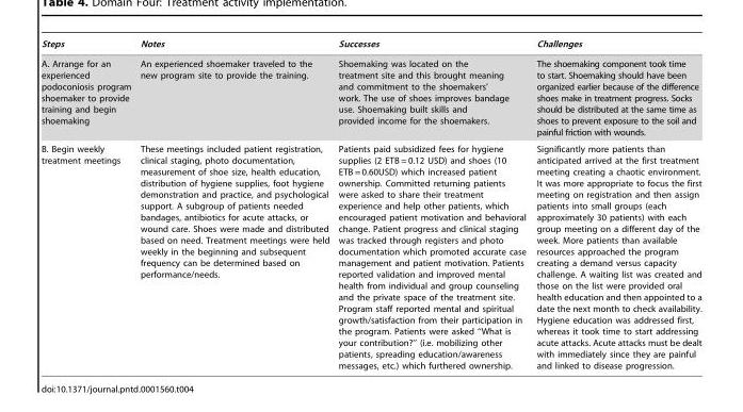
<table><thead><tr><td>Steps</td><td>Notes</td><td>Successes</td><td>Challenges</td></tr></thead><tbody><tr><td>A. Arrange for an experienced podoconiosis program shoemaker to provide training and begin shoemaking</td><td>An experienced shoemaker traveled to the new program site to provide the training.</td><td>Shoemaking was located on the treatment site and this brought meaning and commitment to the shoemakers’ work. The use of shoes improves bandage use. Shoemaking built skills and provided income for the shoemakers.</td><td>The shoemaking component took time to start. Shoemaking should have been organized earlier because of the difference shoes make in treatment progress. Socks should be distributed at the same time as shoes to prevent exposure to the soil and painful friction with wounds.</td></tr><tr><td>B. Begin weekly treatment meetings</td><td>These meetings included patient registration, clinical staging, photo documentation, measurement of shoe size, health education, distribution of hygiene supplies, foot hygiene demonstration and practice, and psychological support. A subgroup of patients needed bandages, antibiotics for acute attacks, or wound care. Shoes were made and distributed based on need. Treatment meetings were held weekly in the beginning and subsequent frequency can be determined based on performance/needs.</td><td>Patients paid subsidized fees for hygiene supplies (2 ETB = 0.12 USD) and shoes (10 ETB = 0.60USD) which increased patient ownership. Committed returning patients were asked to share their treatment experience and help other patients, which encouraged patient motivation and behavioral change. Patient progress and clinical staging was tracked through registers and photo documentation which promoted accurate case management and patient motivation. Patients reported validation and improved mental health from individual and group counseling and the private space of the treatment site. Program staff reported mental and spiritual growth/satisfaction from their participation in the program. Patients were asked ‘‘What is your contribution?’’ (i.e. mobilizing other patients, spreading education/awareness messages, etc.) which furthered ownership.</td><td>Significantly more patients than anticipated arrived at the first treatment meeting creating a chaotic environment. It was more appropriate to focus the first meeting on registration and then assign patients into small groups (each approximately 30 patients) with each group meeting on a different day of the week. More patients than available resources approached the program creating a demand versus capacity challenge. A waiting list was created and those on the list were provided oral health education and then appointed to a date the next month to check availability. Hygiene education was addressed first, whereas it took time to start addressing acute attacks. Acute attacks must be dealt with immediately since they are painful and linked to disease progression.</td></tr></tbody></table>